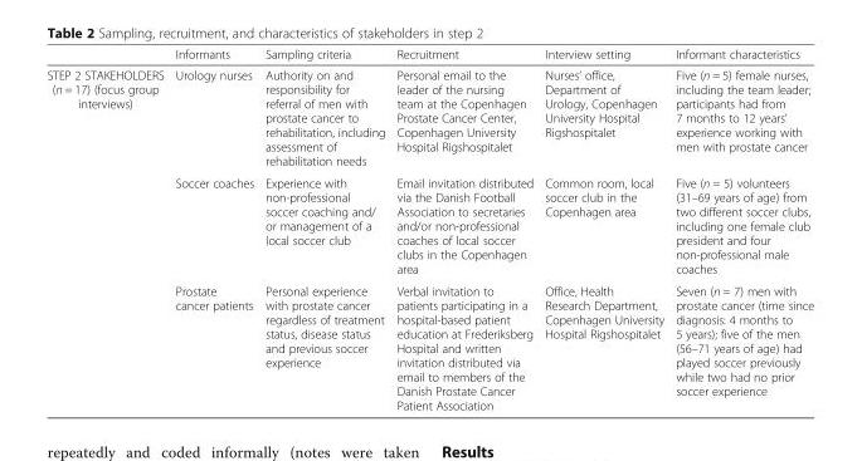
<table><thead><tr><td></td><td>Informants</td><td>Sampling criteria</td><td>Recruitment</td><td>Interview setting</td><td>Informant characteristics</td></tr></thead><tbody><tr><td rowspan="3">STEP 2 STAKEHOLDERS (n = 17) (focus group interviews)</td><td>Urology nurses</td><td>Authority on and responsibility for referral of men with prostate cancer to rehabilitation, including assessment of rehabilitation needs</td><td>Personal email to the leader of the nursing team at the Copenhagen Prostate Cancer Center, Copenhagen University Hospital Rigshospitalet</td><td>Nurses’ office, Department of Urology, Copenhagen University Hospital Rigshospitalet</td><td>Five (n = 5) female nurses, including the team leader; participants had from 7 months to 12 years’ experience working with men with prostate cancer</td></tr><tr><td>Soccer coaches</td><td>Experience with non-professional soccer coaching and/ or management of a local soccer club</td><td>Email invitation distributed via the Danish Football Association to secretaries and/or non-professional coaches of local soccer clubs in the Copenhagen area</td><td>Common room, local soccer club in the Copenhagen area</td><td>Five (n = 5) volunteers (31–69 years of age) from two different soccer clubs, including one female club president and four non-professional male coaches</td></tr><tr><td>Prostate cancer patients</td><td>Personal experience with prostate cancer regardless of treatment status, disease status and previous soccer experience</td><td>Verbal invitation to patients participating in a hospital-based patient education at Frederiksberg Hospital and written invitation distributed via email to members of the Danish Prostate Cancer Patient Association</td><td>Office, Health Research Department, Copenhagen University Hospital Rigshospitalet</td><td>Seven (n = 7) men with prostate cancer (time since diagnosis: 4 months to 5 years); five of the men (56–71 years of age) had played soccer previously while two had no prior soccer experience</td></tr></tbody></table>